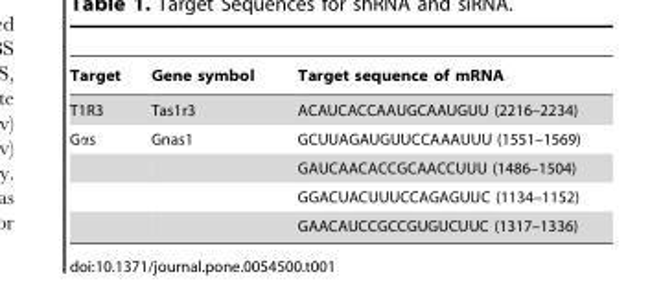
<table><thead><tr><td>Target</td><td>Gene symbol</td><td>Target sequence of mRNA</td></tr></thead><tbody><tr><td>T1R3</td><td>Tas1r3</td><td>ACAUCACCAAUGCAAUGUU (2216–2234)</td></tr><tr><td rowspan="4">Gαs</td><td>Gnas1</td><td>GCUUAGAUGUUCCAAAUUU (1551–1569)</td></tr><tr><td></td><td>GAUCAACACCGCAACCUUU (1486–1504)</td></tr><tr><td></td><td>GGACUACUUUCCAGAGUUC (1134–1152)</td></tr><tr><td></td><td>GAACAUCCGCCGUGUCUUC (1317–1336)</td></tr></tbody></table>